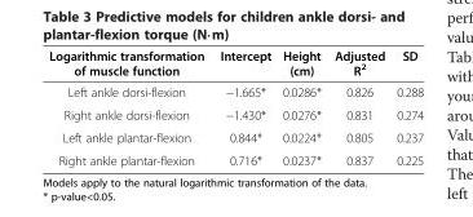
<table><thead><tr><td>Logarithmic transformation of muscle function</td><td>Intercept</td><td>Height (cm)</td><td>Adjusted R<sup>2</sup></td><td>SD</td></tr></thead><tbody><tr><td>Left ankle dorsi-flexion</td><td>−1.665*</td><td>0.0286*</td><td>0.826</td><td>0.288</td></tr><tr><td>Right ankle dorsi-flexion</td><td>−1.430*</td><td>0.0276*</td><td>0.831</td><td>0.274</td></tr><tr><td>Left ankle plantar-flexion</td><td>0.844*</td><td>0.0224*</td><td>0.805</td><td>0.237</td></tr><tr><td>Right ankle plantar-flexion</td><td>0.716*</td><td>0.0237*</td><td>0.837</td><td>0.225</td></tr></tbody></table>